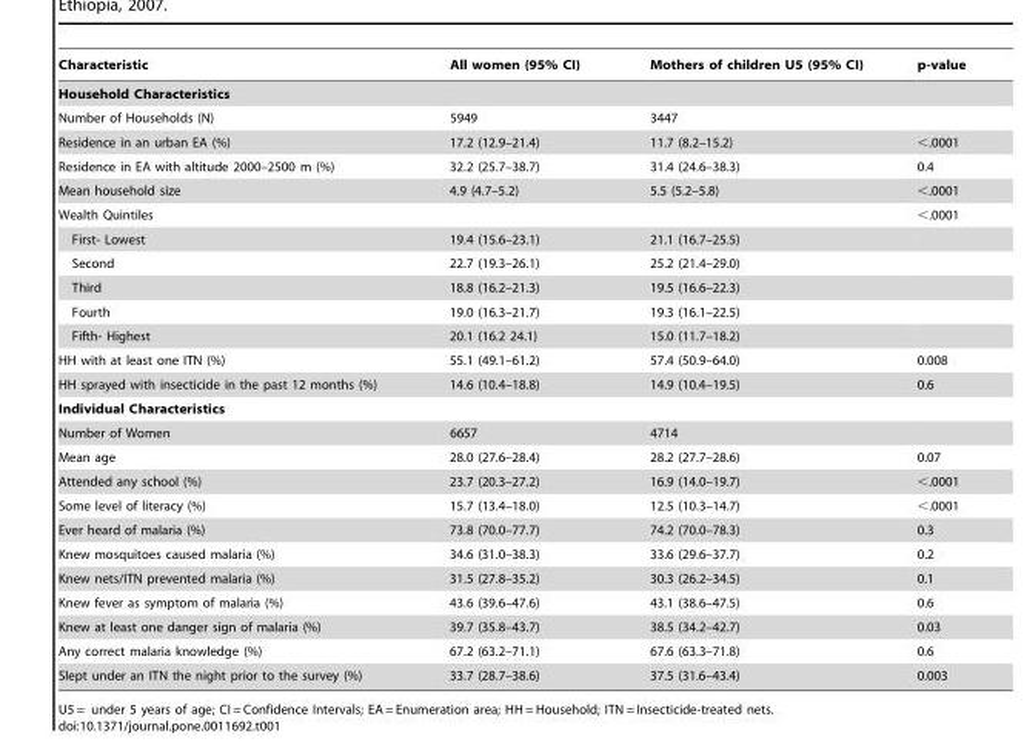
<table><thead><tr><td>Characteristic</td><td>All women (95% CI)</td><td>Mothers of children U5 (95% CI)</td><td>p-value</td></tr></thead><tbody><tr><td colspan="4">Household Characteristics</td></tr><tr><td>Number of Households (N)</td><td>5949</td><td>3447</td><td></td></tr><tr><td>Residence in an urban EA (%)</td><td>17.2 (12.9–21.4)</td><td>11.7 (8.2–15.2)</td><td>&lt;.0001</td></tr><tr><td>Residence in EA with altitude 2000–2500 m (%)</td><td>32.2 (25.7–38.7)</td><td>31.4 (24.6–38.3)</td><td>0.4</td></tr><tr><td>Mean household size</td><td>4.9 (4.7–5.2)</td><td>5.5 (5.2–5.8)</td><td>&lt;.0001</td></tr><tr><td>Wealth Quintiles</td><td></td><td></td><td>&lt;.0001</td></tr><tr><td>First- Lowest</td><td>19.4 (15.6–23.1)</td><td>21.1 (16.7–25.5)</td><td></td></tr><tr><td>Second</td><td>22.7 (19.3–26.1)</td><td>25.2 (21.4–29.0)</td><td></td></tr><tr><td>Third</td><td>18.8 (16.2–21.3)</td><td>19.5 (16.6–22.3)</td><td></td></tr><tr><td>Fourth</td><td>19.0 (16.3–21.7)</td><td>19.3 (16.1–22.5)</td><td></td></tr><tr><td>Fifth- Highest</td><td>20.1 (16.2 24.1)</td><td>15.0 (11.7–18.2)</td><td></td></tr><tr><td>HH with at least one ITN (%)</td><td>55.1 (49.1–61.2)</td><td>57.4 (50.9–64.0)</td><td>0.008</td></tr><tr><td>HH sprayed with insecticide in the past 12 months (%)</td><td>14.6 (10.4–18.8)</td><td>14.9 (10.4–19.5)</td><td>0.6</td></tr><tr><td colspan="4">Individual Characteristics</td></tr><tr><td>Number of Women</td><td>6657</td><td>4714</td><td></td></tr><tr><td>Mean age</td><td>28.0 (27.6–28.4)</td><td>28.2 (27.7–28.6)</td><td>0.07</td></tr><tr><td>Attended any school (%)</td><td>23.7 (20.3–27.2)</td><td>16.9 (14.0–19.7)</td><td>&lt;.0001</td></tr><tr><td>Some level of literacy (%)</td><td>15.7 (13.4–18.0)</td><td>12.5 (10.3–14.7)</td><td>&lt;.0001</td></tr><tr><td>Ever heard of malaria (%)</td><td>73.8 (70.0–77.7)</td><td>74.2 (70.0–78.3)</td><td>0.3</td></tr><tr><td>Knew mosquitoes caused malaria (%)</td><td>34.6 (31.0–38.3)</td><td>33.6 (29.6–37.7)</td><td>0.2</td></tr><tr><td>Knew nets/ITN prevented malaria (%)</td><td>31.5 (27.8–35.2)</td><td>30.3 (26.2–34.5)</td><td>0.1</td></tr><tr><td>Knew fever as symptom of malaria (%)</td><td>43.6 (39.6–47.6)</td><td>43.1 (38.6–47.5)</td><td>0.6</td></tr><tr><td>Knew at least one danger sign of malaria (%)</td><td>39.7 (35.8–43.7)</td><td>38.5 (34.2–42.7)</td><td>0.03</td></tr><tr><td>Any correct malaria knowledge (%)</td><td>67.2 (63.2–71.1)</td><td>67.6 (63.3–71.8)</td><td>0.6</td></tr><tr><td>Slept under an ITN the night prior to the survey (%)</td><td>33.7 (28.7–38.6)</td><td>37.5 (31.6–43.4)</td><td>0.003</td></tr></tbody></table>